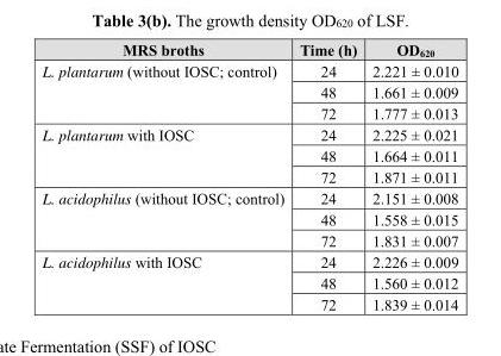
<table><thead><tr><td>MRS broths</td><td>Time (h)</td><td>OD<sub>620</sub></td></tr></thead><tbody><tr><td rowspan="3">L. plantarum (without IOSC; control)</td><td>24</td><td>2.221 ± 0.010</td></tr><tr><td>48</td><td>1.661 ± 0.009</td></tr><tr><td>72</td><td>1.777 ± 0.013</td></tr><tr><td rowspan="3">L. plantarum with IOSC</td><td>24</td><td>2.225 ± 0.021</td></tr><tr><td>48</td><td>1.664 ± 0.011</td></tr><tr><td>72</td><td>1.871 ± 0.011</td></tr><tr><td rowspan="3">L. acidophilus (without IOSC; control)</td><td>24</td><td>2.151 ± 0.008</td></tr><tr><td>48</td><td>1.558 ± 0.015</td></tr><tr><td>72</td><td>1.831 ± 0.007</td></tr><tr><td rowspan="3">L. acidophilus with IOSC</td><td>24</td><td>2.226 ± 0.009</td></tr><tr><td>48</td><td>1.560 ± 0.012</td></tr><tr><td>72</td><td>1.839 ± 0.014</td></tr></tbody></table>